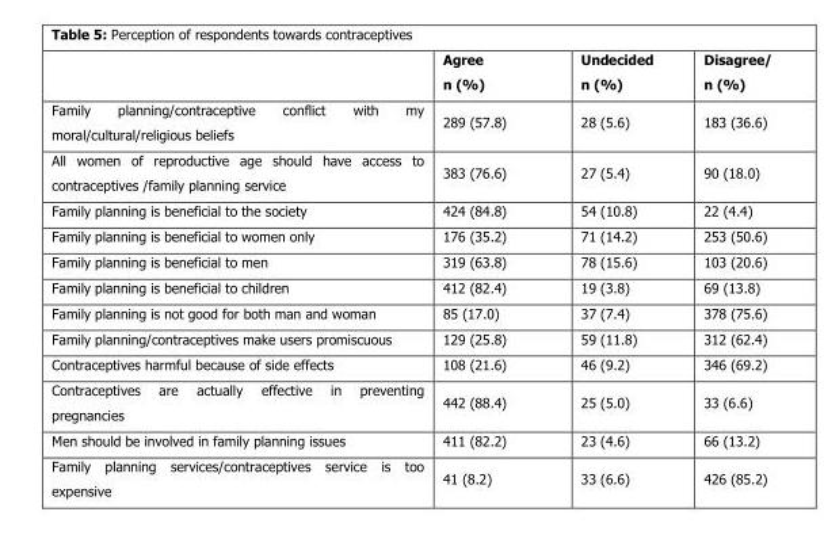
<table><thead><tr><td></td><td>Agree n (%)</td><td>Undecided n (%)</td><td>Disagree/ n (%)</td></tr></thead><tbody><tr><td>Family planning/contraceptive conflict with my moral/cultural/religious beliefs</td><td>289 (57.8)</td><td>28 (5.6)</td><td>183 (36.6)</td></tr><tr><td>All women of reproductive age should have access to contraceptives /family planning service</td><td>383 (76.6)</td><td>27 (5.4)</td><td>90 (18.0)</td></tr><tr><td>Family planning is beneficial to the society</td><td>424 (84.8)</td><td>54 (10.8)</td><td>22 (4.4)</td></tr><tr><td>Family planning is beneficial to women only</td><td>176 (35.2)</td><td>71 (14.2)</td><td>253 (50.6)</td></tr><tr><td>Family planning is beneficial to men</td><td>319 (63.8)</td><td>78 (15.6)</td><td>103 (20.6)</td></tr><tr><td>Family planning is beneficial to children</td><td>412 (82.4)</td><td>19 (3.8)</td><td>69 (13.8)</td></tr><tr><td>Family planning is not good for both man and woman</td><td>85 (17.0)</td><td>37 (7.4)</td><td>378 (75.6)</td></tr><tr><td>Family planning/contraceptives make users promiscuous</td><td>129 (25.8)</td><td>59 (11.8)</td><td>312 (62.4)</td></tr><tr><td>Contraceptives harmful because of side effects</td><td>108 (21.6)</td><td>46 (9.2)</td><td>346 (69.2)</td></tr><tr><td>Contraceptives are actually effective in preventing pregnancies</td><td>442 (88.4)</td><td>25 (5.0)</td><td>33 (6.6)</td></tr><tr><td>Men should be involved in family planning issues</td><td>411 (82.2)</td><td>23 (4.6)</td><td>66 (13.2)</td></tr><tr><td>Family planning services/contraceptives service is too expensive</td><td>41 (8.2)</td><td>33 (6.6)</td><td>426 (85.2)</td></tr></tbody></table>